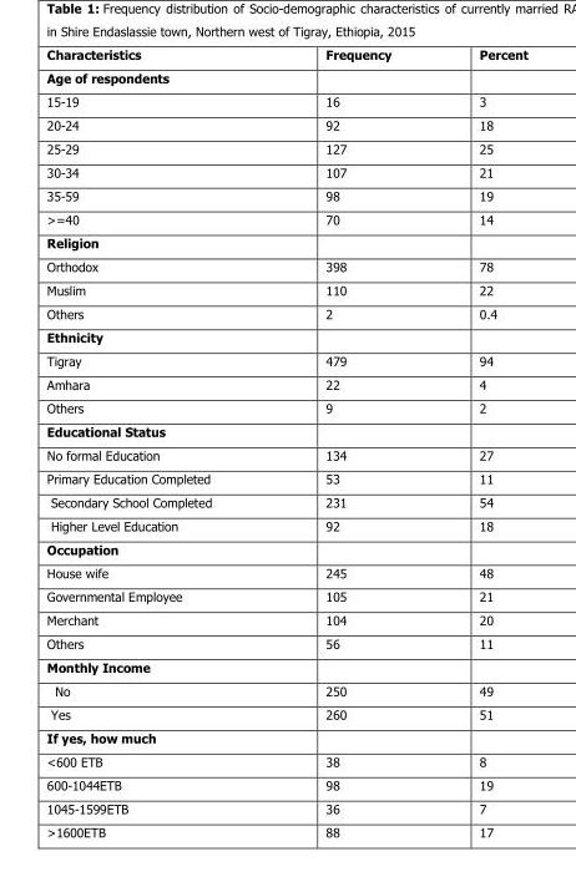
<table><thead><tr><td>Characteristics</td><td>Frequency</td><td>Percent</td></tr></thead><tbody><tr><td colspan="3">Age of respondents</td></tr><tr><td>15-19</td><td>16</td><td>3</td></tr><tr><td>20-24</td><td>92</td><td>18</td></tr><tr><td>25-29</td><td>127</td><td>25</td></tr><tr><td>30-34</td><td>107</td><td>21</td></tr><tr><td>35-59</td><td>98</td><td>19</td></tr><tr><td>&gt;=40</td><td>70</td><td>14</td></tr><tr><td colspan="3">Religion</td></tr><tr><td>Orthodox</td><td>398</td><td>78</td></tr><tr><td>Muslim</td><td>110</td><td>22</td></tr><tr><td>Others</td><td>2</td><td>0.4</td></tr><tr><td colspan="3">Ethnicity</td></tr><tr><td>Tigray</td><td>479</td><td>94</td></tr><tr><td>Amhara</td><td>22</td><td>4</td></tr><tr><td>Others</td><td>9</td><td>2</td></tr><tr><td colspan="3">Educational Status</td></tr><tr><td>No formal Education</td><td>134</td><td>27</td></tr><tr><td>Primary Education Completed</td><td>53</td><td>11</td></tr><tr><td>Secondary School Completed</td><td>231</td><td>54</td></tr><tr><td>Higher Level Education</td><td>92</td><td>18</td></tr><tr><td colspan="3">Occupation</td></tr><tr><td>House wife</td><td>245</td><td>48</td></tr><tr><td>Governmental Employee</td><td>105</td><td>21</td></tr><tr><td>Merchant</td><td>104</td><td>20</td></tr><tr><td>Others</td><td>56</td><td>11</td></tr><tr><td colspan="3">Monthly Income</td></tr><tr><td>No</td><td>250</td><td>49</td></tr><tr><td>Yes</td><td>260</td><td>51</td></tr><tr><td colspan="3">If yes, how much</td></tr><tr><td>&lt;600 ETB</td><td>38</td><td>8</td></tr><tr><td>600-1044ETB</td><td>98</td><td>19</td></tr><tr><td>1045-1599ETB</td><td>36</td><td>7</td></tr><tr><td>&gt;1600ETB</td><td>88</td><td>17</td></tr></tbody></table>